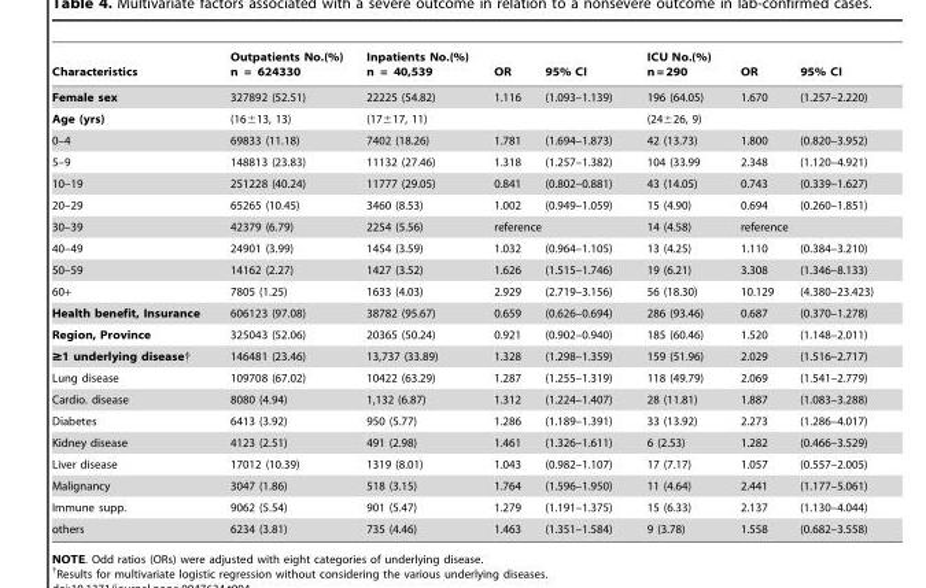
<table><thead><tr><td>Characteristics</td><td>Outpatients No.(%) n = 624330</td><td>Inpatients No.(%) n = 40,539</td><td>OR</td><td>95% CI</td><td>ICU No.(%) n = 290</td><td>OR</td><td>95% CI</td></tr></thead><tbody><tr><td>Female sex</td><td>327892 (52.51)</td><td>22225 (54.82)</td><td>1.116</td><td>(1.093–1.139)</td><td>196 (64.05)</td><td>1.670</td><td>(1.257–2.220)</td></tr><tr><td>Age (yrs)</td><td>(16±13, 13)</td><td>(17±17, 11)</td><td></td><td></td><td>(24±26, 9)</td><td></td><td></td></tr><tr><td>0–4</td><td>69833 (11.18)</td><td>7402 (18.26)</td><td>1.781</td><td>(1.694–1.873)</td><td>42 (13.73)</td><td>1.800</td><td>(0.820–3.952)</td></tr><tr><td>5–9</td><td>148813 (23.83)</td><td>11132 (27.46)</td><td>1.318</td><td>(1.257–1.382)</td><td>104 (33.99</td><td>2.348</td><td>(1.120–4.921)</td></tr><tr><td>10–19</td><td>251228 (40.24)</td><td>11777 (29.05)</td><td>0.841</td><td>(0.802–0.881)</td><td>43 (14.05)</td><td>0.743</td><td>(0.339–1.627)</td></tr><tr><td>20–29</td><td>65265 (10.45)</td><td>3460 (8.53)</td><td>1.002</td><td>(0.949–1.059)</td><td>15 (4.90)</td><td>0.694</td><td>(0.260–1.851)</td></tr><tr><td>30–39</td><td>42379 (6.79)</td><td>2254 (5.56)</td><td colspan="2">reference</td><td>14 (4.58)</td><td colspan="2">reference</td></tr><tr><td>40–49</td><td>24901 (3.99)</td><td>1454 (3.59)</td><td>1.032</td><td>(0.964–1.105)</td><td>13 (4.25)</td><td>1.110</td><td>(0.384–3.210)</td></tr><tr><td>50–59</td><td>14162 (2.27)</td><td>1427 (3.52)</td><td>1.626</td><td>(1.515–1.746)</td><td>19 (6.21)</td><td>3.308</td><td>(1.346–8.133)</td></tr><tr><td>60+</td><td>7805 (1.25)</td><td>1633 (4.03)</td><td>2.929</td><td>(2.719–3.156)</td><td>56 (18.30)</td><td>10.129</td><td>(4.380–23.423)</td></tr><tr><td>Health benefit, Insurance</td><td>606123 (97.08)</td><td>38782 (95.67)</td><td>0.659</td><td>(0.626–0.694)</td><td>286 (93.46)</td><td>0.687</td><td>(0.370–1.278)</td></tr><tr><td>Region, Province</td><td>325043 (52.06)</td><td>20365 (50.24)</td><td>0.921</td><td>(0.902–0.940)</td><td>185 (60.46)</td><td>1.520</td><td>(1.148–2.011)</td></tr><tr><td>≥1 underlying disease†</td><td>146481 (23.46)</td><td>13,737 (33.89)</td><td>1.328</td><td>(1.298–1.359)</td><td>159 (51.96)</td><td>2.029</td><td>(1.516–2.717)</td></tr><tr><td>Lung disease</td><td>109708 (67.02)</td><td>10422 (63.29)</td><td>1.287</td><td>(1.255–1.319)</td><td>118 (49.79)</td><td>2.069</td><td>(1.541–2.779)</td></tr><tr><td>Cardio. disease</td><td>8080 (4.94)</td><td>1,132 (6.87)</td><td>1.312</td><td>(1.224–1.407)</td><td>28 (11.81)</td><td>1.887</td><td>(1.083–3.288)</td></tr><tr><td>Diabetes</td><td>6413 (3.92)</td><td>950 (5.77)</td><td>1.286</td><td>(1.189–1.391)</td><td>33 (13.92)</td><td>2.273</td><td>(1.286–4.017)</td></tr><tr><td>Kidney disease</td><td>4123 (2.51)</td><td>491 (2.98)</td><td>1.461</td><td>(1.326–1.611)</td><td>6 (2.53)</td><td>1.282</td><td>(0.466–3.529)</td></tr><tr><td>Liver disease</td><td>17012 (10.39)</td><td>1319 (8.01)</td><td>1.043</td><td>(0.982–1.107)</td><td>17 (7.17)</td><td>1.057</td><td>(0.557–2.005)</td></tr><tr><td>Malignancy</td><td>3047 (1.86)</td><td>518 (3.15)</td><td>1.764</td><td>(1.596–1.950)</td><td>11 (4.64)</td><td>2.441</td><td>(1.177–5.061)</td></tr><tr><td>Immune supp.</td><td>9062 (5.54)</td><td>901 (5.47)</td><td>1.279</td><td>(1.191–1.375)</td><td>15 (6.33)</td><td>2.137</td><td>(1.130–4.044)</td></tr><tr><td>others</td><td>6234 (3.81)</td><td>735 (4.46)</td><td>1.463</td><td>(1.351–1.584)</td><td>9 (3.78)</td><td>1.558</td><td>(0.682–3.558)</td></tr></tbody></table>